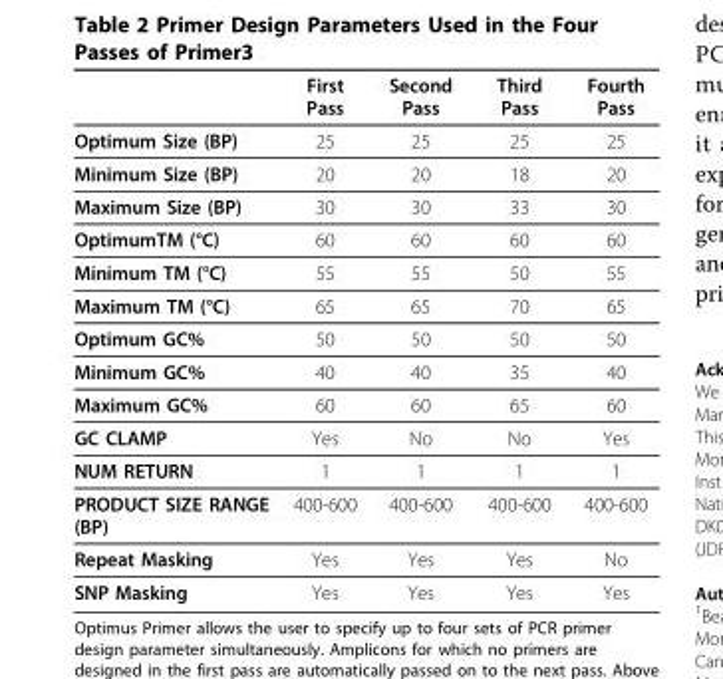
<table><thead><tr><td></td><td>First Pass</td><td>Second Pass</td><td>Third Pass</td><td>Fourth Pass</td></tr></thead><tbody><tr><td>Optimum Size (BP)</td><td>25</td><td>25</td><td>25</td><td>25</td></tr><tr><td>Minimum Size (BP)</td><td>20</td><td>20</td><td>18</td><td>20</td></tr><tr><td>Maximum Size (BP)</td><td>30</td><td>30</td><td>33</td><td>30</td></tr><tr><td>OptimumTM (°C)</td><td>60</td><td>60</td><td>60</td><td>60</td></tr><tr><td>Minimum TM (°C)</td><td>55</td><td>55</td><td>50</td><td>55</td></tr><tr><td>Maximum TM (°C)</td><td>65</td><td>65</td><td>70</td><td>65</td></tr><tr><td>Optimum GC%</td><td>50</td><td>50</td><td>50</td><td>50</td></tr><tr><td>Minimum GC%</td><td>40</td><td>40</td><td>35</td><td>40</td></tr><tr><td>Maximum GC%</td><td>60</td><td>60</td><td>65</td><td>60</td></tr><tr><td>GC CLAMP</td><td>Yes</td><td>No</td><td>No</td><td>Yes</td></tr><tr><td>NUM RETURN</td><td>1</td><td>1</td><td>1</td><td>1</td></tr><tr><td>PRODUCT SIZE RANGE (BP)</td><td>400-600</td><td>400-600</td><td>400-600</td><td>400-600</td></tr><tr><td>Repeat Masking</td><td>Yes</td><td>Yes</td><td>Yes</td><td>No</td></tr><tr><td>SNP Masking</td><td>Yes</td><td>Yes</td><td>Yes</td><td>Yes</td></tr></tbody></table>